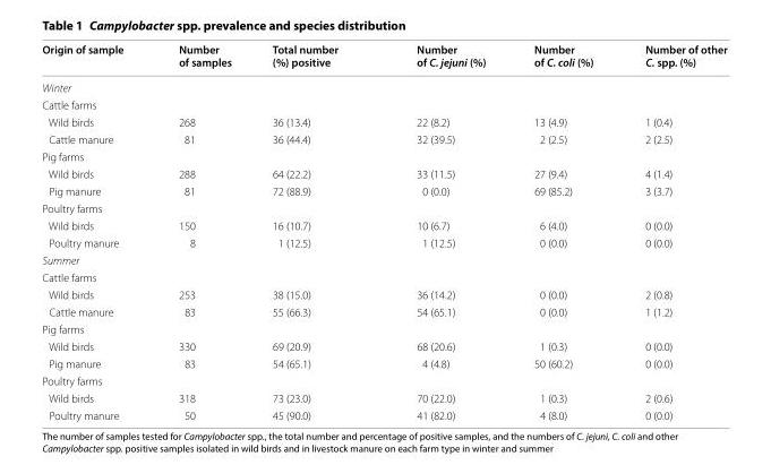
<table><thead><tr><td>Origin of sample</td><td>Number of samples</td><td>Total number (%) positive</td><td>Number of C. jejuni (%)</td><td>Number of C. coli (%)</td><td>Number of other C. spp. (%)</td></tr></thead><tbody><tr><td colspan="6">Winter</td></tr><tr><td colspan="6">Cattle farms</td></tr><tr><td>Wild birds</td><td>268</td><td>36 (13.4)</td><td>22 (8.2)</td><td>13 (4.9)</td><td>1 (0.4)</td></tr><tr><td>Cattle manure</td><td>81</td><td>36 (44.4)</td><td>32 (39.5)</td><td>2 (2.5)</td><td>2 (2.5)</td></tr><tr><td colspan="6">Pig farms</td></tr><tr><td>Wild birds</td><td>288</td><td>64 (22.2)</td><td>33 (11.5)</td><td>27 (9.4)</td><td>4 (1.4)</td></tr><tr><td>Pig manure</td><td>81</td><td>72 (88.9)</td><td>0 (0.0)</td><td>69 (85.2)</td><td>3 (3.7)</td></tr><tr><td colspan="6">Poultry farms</td></tr><tr><td>Wild birds</td><td>150</td><td>16 (10.7)</td><td>10 (6.7)</td><td>6 (4.0)</td><td>0 (0.0)</td></tr><tr><td>Poultry manure</td><td>8</td><td>1 (12.5)</td><td>1 (12.5)</td><td>0 (0.0)</td><td>0 (0.0)</td></tr><tr><td colspan="6">Summer</td></tr><tr><td colspan="6">Cattle farms</td></tr><tr><td>Wild birds</td><td>253</td><td>38 (15.0)</td><td>36 (14.2)</td><td>0 (0.0)</td><td>2 (0.8)</td></tr><tr><td>Cattle manure</td><td>83</td><td>55 (66.3)</td><td>54 (65.1)</td><td>0 (0.0)</td><td>1 (1.2)</td></tr><tr><td colspan="6">Pig farms</td></tr><tr><td>Wild birds</td><td>330</td><td>69 (20.9)</td><td>68 (20.6)</td><td>1 (0.3)</td><td>0 (0.0)</td></tr><tr><td>Pig manure</td><td>83</td><td>54 (65.1)</td><td>4 (4.8)</td><td>50 (60.2)</td><td>0 (0.0)</td></tr><tr><td colspan="6">Poultry farms</td></tr><tr><td>Wild birds</td><td>318</td><td>73 (23.0)</td><td>70 (22.0)</td><td>1 (0.3)</td><td>2 (0.6)</td></tr><tr><td>Poultry manure</td><td>50</td><td>45 (90.0)</td><td>41 (82.0)</td><td>4 (8.0)</td><td>0 (0.0)</td></tr></tbody></table>